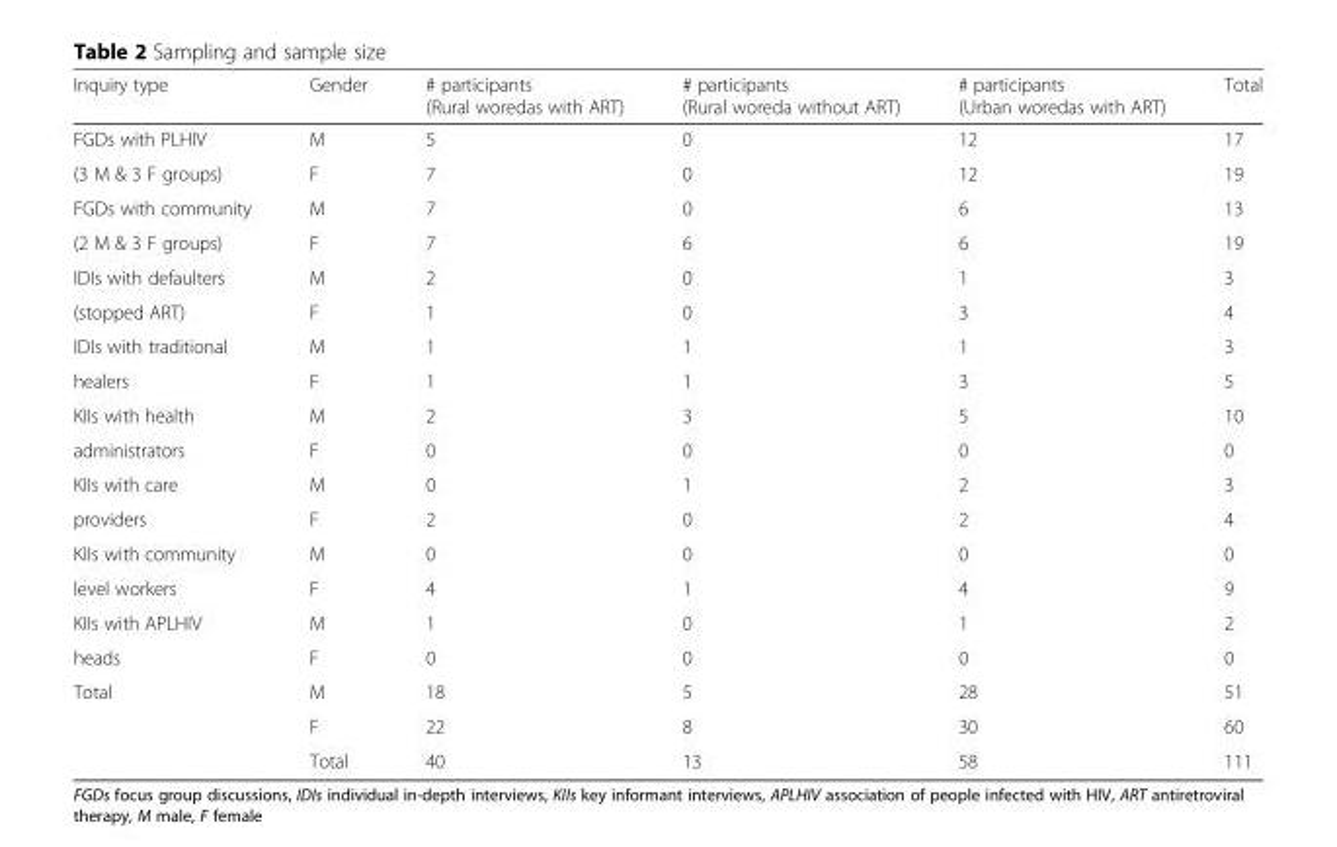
<table><thead><tr><td>Inquiry type</td><td>Gender</td><td># participants (Rural woredas with ART)</td><td># participants (Rural woreda without ART)</td><td># participants (Urban woredas with ART)</td><td>Total</td></tr></thead><tbody><tr><td>FGDs with PLHIV</td><td>M</td><td>5</td><td>0</td><td>12</td><td>17</td></tr><tr><td>(3 M &amp; 3 F groups)</td><td>F</td><td>7</td><td>0</td><td>12</td><td>19</td></tr><tr><td>FGDs with community</td><td>M</td><td>7</td><td>0</td><td>6</td><td>13</td></tr><tr><td>(2 M &amp; 3 F groups)</td><td>F</td><td>7</td><td>6</td><td>6</td><td>19</td></tr><tr><td>IDIs with defaulters</td><td>M</td><td>2</td><td>0</td><td>1</td><td>3</td></tr><tr><td>(stopped ART)</td><td>F</td><td>1</td><td>0</td><td>3</td><td>4</td></tr><tr><td>IDIs with traditional</td><td>M</td><td>1</td><td>1</td><td>1</td><td>3</td></tr><tr><td>healers</td><td>F</td><td>1</td><td>1</td><td>3</td><td>5</td></tr><tr><td>KIIs with health</td><td>M</td><td>2</td><td>3</td><td>5</td><td>10</td></tr><tr><td>administrators</td><td>F</td><td>0</td><td>0</td><td>0</td><td>0</td></tr><tr><td>KIIs with care</td><td>M</td><td>0</td><td>1</td><td>2</td><td>3</td></tr><tr><td>providers</td><td>F</td><td>2</td><td>0</td><td>2</td><td>4</td></tr><tr><td>KIIs with community</td><td>M</td><td>0</td><td>0</td><td>0</td><td>0</td></tr><tr><td>level workers</td><td>F</td><td>4</td><td>1</td><td>4</td><td>9</td></tr><tr><td>KIIs with APLHIV</td><td>M</td><td>1</td><td>0</td><td>1</td><td>2</td></tr><tr><td>heads</td><td>F</td><td>0</td><td>0</td><td>0</td><td>0</td></tr><tr><td rowspan="3">Total</td><td>M</td><td>18</td><td>5</td><td>28</td><td>51</td></tr><tr><td>F</td><td>22</td><td>8</td><td>30</td><td>60</td></tr><tr><td>Total</td><td>40</td><td>13</td><td>58</td><td>111</td></tr></tbody></table>